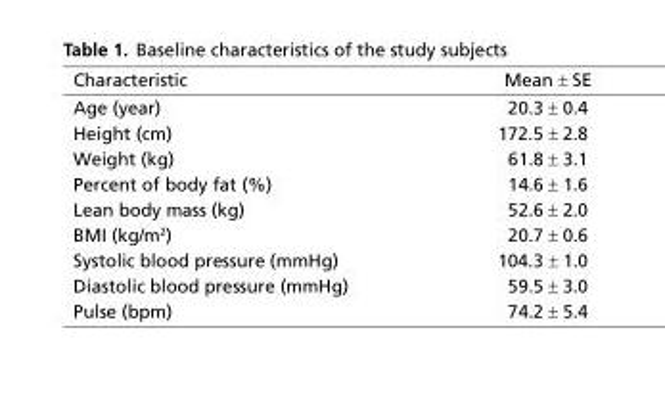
<table><thead><tr><td>Characteristic</td><td>Mean ± SE</td></tr></thead><tbody><tr><td>Age (year)</td><td>20.3 ± 0.4</td></tr><tr><td>Height (cm)</td><td>172.5 ± 2.8</td></tr><tr><td>Weight (kg)</td><td>61.8 ± 3.1</td></tr><tr><td>Percent of body fat (%)</td><td>14.6 ± 1.6</td></tr><tr><td>Lean body mass (kg)</td><td>52.6 ± 2.0</td></tr><tr><td>BMI (kg/m<sup>2</sup>)</td><td>20.7 ± 0.6</td></tr><tr><td>Systolic blood pressure (mmHg)</td><td>104.3 ± 1.0</td></tr><tr><td>Diastolic blood pressure (mmHg)</td><td>59.5 ± 3.0</td></tr><tr><td>Pulse (bpm)</td><td>74.2 ± 5.4</td></tr></tbody></table>